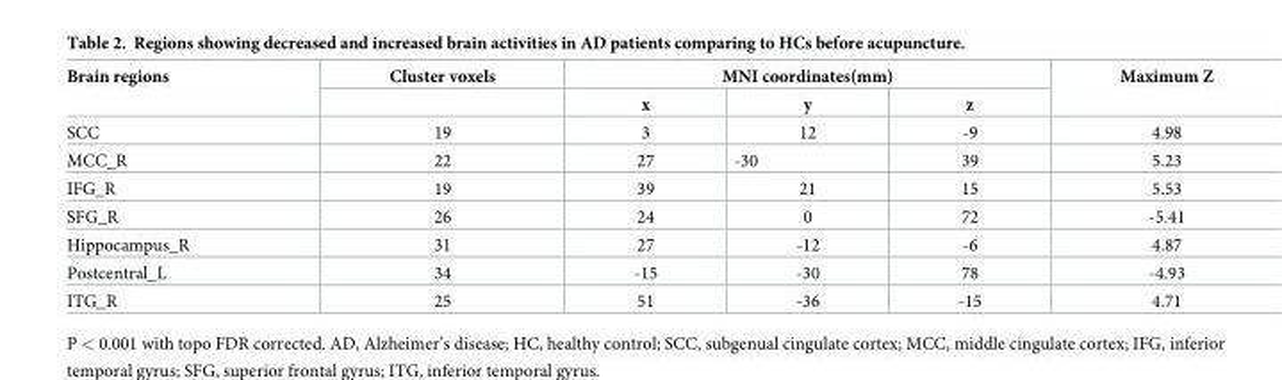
<table><thead><tr><td rowspan="2">Brain regions</td><td rowspan="2">Cluster voxels</td><td colspan="3">MNI coordinates(mm)</td><td rowspan="2">Maximum Z</td></tr><tr><td>x</td><td>y</td><td>z</td></tr></thead><tbody><tr><td>SCC</td><td>19</td><td>3</td><td>12</td><td>-9</td><td>4.98</td></tr><tr><td>MCC_R</td><td>22</td><td>27</td><td>-30</td><td>39</td><td>5.23</td></tr><tr><td>IFG_R</td><td>19</td><td>39</td><td>21</td><td>15</td><td>5.53</td></tr><tr><td>SFG_R</td><td>26</td><td>24</td><td>0</td><td>72</td><td>-5.41</td></tr><tr><td>Hippocampus_R</td><td>31</td><td>27</td><td>-12</td><td>-6</td><td>4.87</td></tr><tr><td>Postcentral_L</td><td>34</td><td>-15</td><td>-30</td><td>78</td><td>-4.93</td></tr><tr><td>ITG_R</td><td>25</td><td>51</td><td>-36</td><td>-15</td><td>4.71</td></tr></tbody></table>